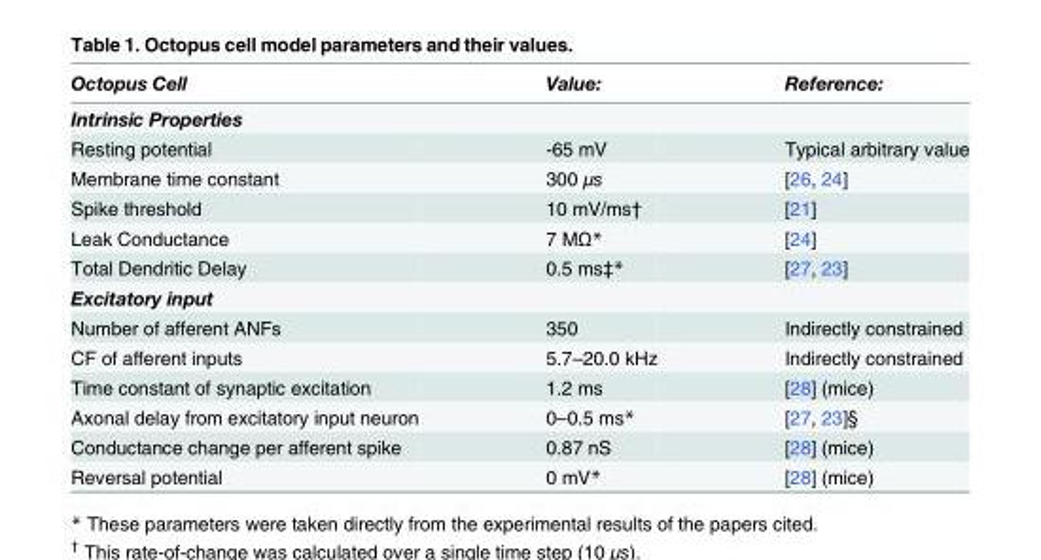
<table><thead><tr><td>Octopus Cell</td><td>Value:</td><td>Reference:</td></tr></thead><tbody><tr><td colspan="3">Intrinsic Properties</td></tr><tr><td>Resting potential</td><td>-65 mV</td><td>Typical arbitrary value</td></tr><tr><td>Membrane time constant</td><td>300 μs</td><td>[26, 24]</td></tr><tr><td>Spike threshold</td><td>10 mV/ms†</td><td>[21]</td></tr><tr><td>Leak Conductance</td><td>7 MΩ*</td><td>[24]</td></tr><tr><td>Total Dendritic Delay</td><td>0.5 ms‡*</td><td>[27, 23]</td></tr><tr><td colspan="3">Excitatory input</td></tr><tr><td>Number of afferent ANFs</td><td>350</td><td>Indirectly constrained</td></tr><tr><td>CF of afferent inputs</td><td>5.7–20.0 kHz</td><td>Indirectly constrained</td></tr><tr><td>Time constant of synaptic excitation</td><td>1.2 ms</td><td>[28] (mice)</td></tr><tr><td>Axonal delay from excitatory input neuron</td><td>0–0.5 ms*</td><td>[27, 23]§</td></tr><tr><td>Conductance change per afferent spike</td><td>0.87 nS</td><td>[28] (mice)</td></tr><tr><td>Reversal potential</td><td>0 mV*</td><td>[28] (mice)</td></tr></tbody></table>